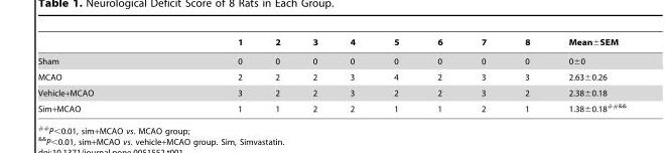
<table><thead><tr><td></td><td>1</td><td>2</td><td>3</td><td>4</td><td>5</td><td>6</td><td>7</td><td>8</td><td>Mean±SEM</td></tr></thead><tbody><tr><td>Sham</td><td>0</td><td>0</td><td>0</td><td>0</td><td>0</td><td>0</td><td>0</td><td>0</td><td>0±0</td></tr><tr><td>MCAO</td><td>2</td><td>2</td><td>2</td><td>3</td><td>4</td><td>2</td><td>3</td><td>3</td><td>2.63±0.26</td></tr><tr><td>Vehicle+MCAO</td><td>3</td><td>2</td><td>2</td><td>3</td><td>2</td><td>2</td><td>3</td><td>2</td><td>2.38±0.18</td></tr><tr><td>Sim+MCAO</td><td>1</td><td>1</td><td>2</td><td>2</td><td>1</td><td>1</td><td>2</td><td>1</td><td>1.38±0.18<sup>##&amp;&amp;</sup></td></tr></tbody></table>